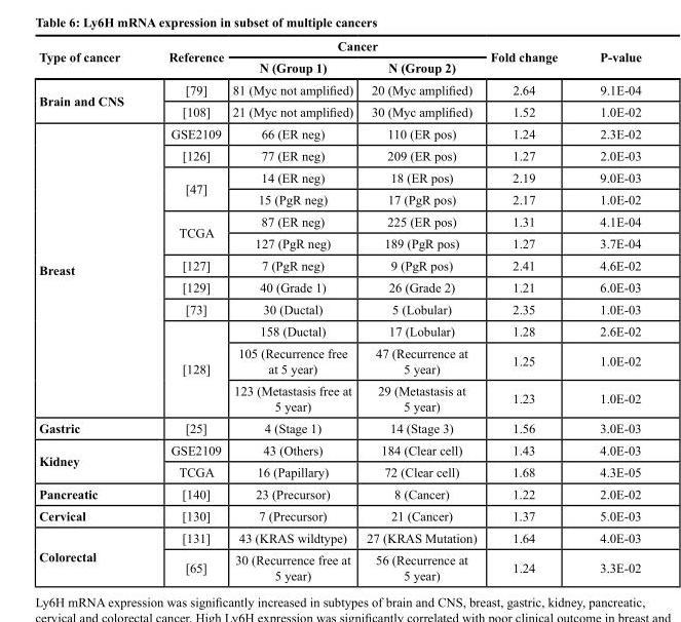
<table><thead><tr><td rowspan="2">Type of cancer</td><td rowspan="2">Reference</td><td colspan="2">Cancer</td><td rowspan="2">Fold change</td><td rowspan="2">P-value</td></tr><tr><td>N (Group 1)</td><td>N (Group 2)</td></tr></thead><tbody><tr><td rowspan="2">Brain and CNS</td><td>[79]</td><td>81 (Myc not amplified)</td><td>20 (Myc amplified)</td><td>2.64</td><td>9.1E-04</td></tr><tr><td>[108]</td><td>21 (Myc not amplified)</td><td>30 (Myc amplified)</td><td>1.52</td><td>1.0E-02</td></tr><tr><td rowspan="12">Breast</td><td>GSE2109</td><td>66 (ER neg)</td><td>110 (ER pos)</td><td>1.24</td><td>2.3E-02</td></tr><tr><td>[126]</td><td>77 (ER neg)</td><td>209 (ER pos)</td><td>1.27</td><td>2.0E-03</td></tr><tr><td rowspan="2">[47]</td><td>14 (ER neg)</td><td>18 (ER pos)</td><td>2.19</td><td>9.0E-03</td></tr><tr><td>15 (PgR neg)</td><td>17 (PgR pos)</td><td>2.17</td><td>1.0E-02</td></tr><tr><td rowspan="2">TCGA</td><td>87 (ER neg)</td><td>225 (ER pos)</td><td>1.31</td><td>4.1E-04</td></tr><tr><td>127 (PgR neg)</td><td>189 (PgR pos)</td><td>1.27</td><td>3.7E-04</td></tr><tr><td>[127]</td><td>7 (PgR neg)</td><td>9 (PgR pos)</td><td>2.41</td><td>4.6E-02</td></tr><tr><td>[129]</td><td>40 (Grade 1)</td><td>26 (Grade 2)</td><td>1.21</td><td>6.0E-03</td></tr><tr><td>[73]</td><td>30 (Ductal)</td><td>5 (Lobular)</td><td>2.35</td><td>1.0E-03</td></tr><tr><td rowspan="3">[128]</td><td>158 (Ductal)</td><td>17 (Lobular)</td><td>1.28</td><td>2.6E-02</td></tr><tr><td>105 (Recurrence free at 5 year)</td><td>47 (Recurrence at 5 year)</td><td>1.25</td><td>1.0E-02</td></tr><tr><td>123 (Metastasis free at 5 year)</td><td>29 (Metastasis at 5 year)</td><td>1.23</td><td>1.0E-02</td></tr><tr><td>Gastric</td><td>[25]</td><td>4 (Stage 1)</td><td>14 (Stage 3)</td><td>1.56</td><td>3.0E-03</td></tr><tr><td rowspan="2">Kidney</td><td>GSE2109</td><td>43 (Others)</td><td>184 (Clear cell)</td><td>1.43</td><td>4.0E-03</td></tr><tr><td>TCGA</td><td>16 (Papillary)</td><td>72 (Clear cell)</td><td>1.68</td><td>4.3E-05</td></tr><tr><td>Pancreatic</td><td>[140]</td><td>23 (Precursor)</td><td>8 (Cancer)</td><td>1.22</td><td>2.0E-02</td></tr><tr><td>Cervical</td><td>[130]</td><td>7 (Precursor)</td><td>21 (Cancer)</td><td>1.37</td><td>5.0E-03</td></tr><tr><td rowspan="2">Colorectal</td><td>[131]</td><td>43 (KRAS wildtype)</td><td>27 (KRAS Mutation)</td><td>1.64</td><td>4.0E-03</td></tr><tr><td>[65]</td><td>30 (Recurrence free at 5 year)</td><td>56 (Recurrence at 5 year)</td><td>1.24</td><td>3.3E-02</td></tr></tbody></table>